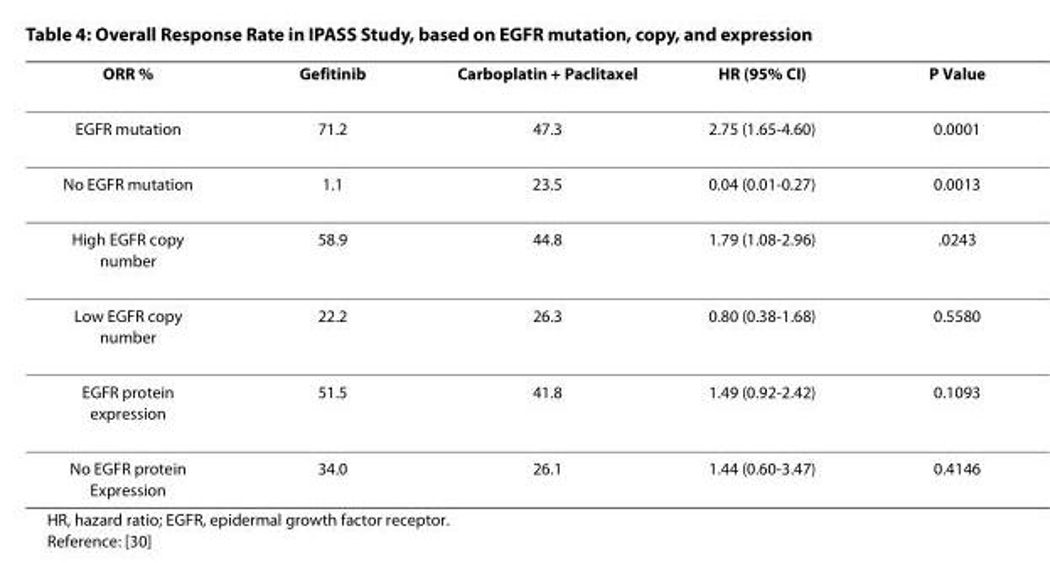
<table><thead><tr><td>ORR %</td><td>Gefitinib</td><td>Carboplatin + Paclitaxel</td><td>HR (95% CI)</td><td>P Value</td></tr></thead><tbody><tr><td>EGFR mutation</td><td>71.2</td><td>47.3</td><td>2.75 (1.65-4.60)</td><td>0.0001</td></tr><tr><td>No EGFR mutation</td><td>1.1</td><td>23.5</td><td>0.04 (0.01-0.27)</td><td>0.0013</td></tr><tr><td>High EGFR copy number</td><td>58.9</td><td>44.8</td><td>1.79 (1.08-2.96)</td><td>.0243</td></tr><tr><td>Low EGFR copy number</td><td>22.2</td><td>26.3</td><td>0.80 (0.38-1.68)</td><td>0.5580</td></tr><tr><td>EGFR protein expression</td><td>51.5</td><td>41.8</td><td>1.49 (0.92-2.42)</td><td>0.1093</td></tr><tr><td>No EGFR protein Expression</td><td>34.0</td><td>26.1</td><td>1.44 (0.60-3.47)</td><td>0.4146</td></tr></tbody></table>